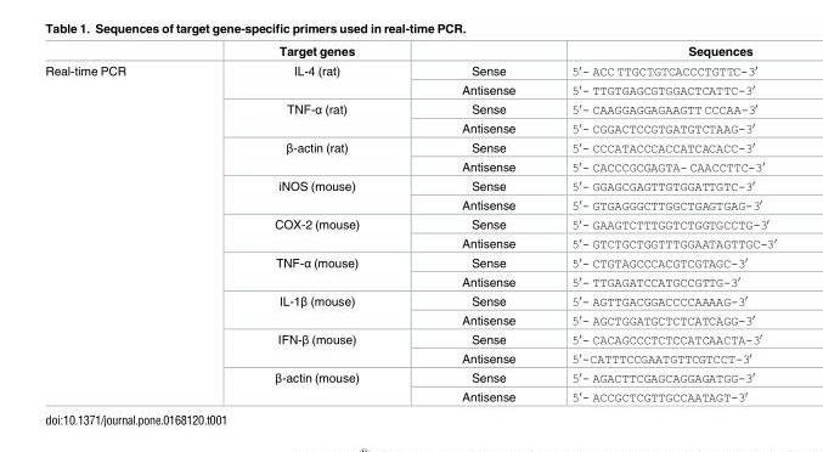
<table><thead><tr><td></td><td>Target genes</td><td></td><td>Sequences</td></tr></thead><tbody><tr><td rowspan="18">Real-time PCR</td><td rowspan="2">IL-4 (rat)</td><td>Sense</td><td>5′- ACC TTGCTGTCACCCTGTTC-3′</td></tr><tr><td>Antisense</td><td>5′- TTGTGAGCGTGGACTCATTC-3′</td></tr><tr><td rowspan="2">TNF-α (rat)</td><td>Sense</td><td>5′- CAAGGAGGAGAAGTT CCCAA-3′</td></tr><tr><td>Antisense</td><td>5′- CGGACTCCGTGATGTCTAAG-3′</td></tr><tr><td rowspan="2">β-actin (rat)</td><td>Sense</td><td>5′- CCCATACCCACCATCACACC-3′</td></tr><tr><td>Antisense</td><td>5′- CACCCGCGAGTA- CAACCTTC-3′</td></tr><tr><td rowspan="2">iNOS (mouse)</td><td>Sense</td><td>5′- GGAGCGAGTTGTGGATTGTC-3′</td></tr><tr><td>Antisense</td><td>5′- GTGAGGGCTTGGCTGAGTGAG-3′</td></tr><tr><td rowspan="2">COX-2 (mouse)</td><td>Sense</td><td>5′- GAAGTCTTTGGTCTGGTGCCTG-3′</td></tr><tr><td>Antisense</td><td>5′- GTCTGCTGGTTTGGAATAGTTGC-3′</td></tr><tr><td rowspan="2">TNF-α (mouse)</td><td>Sense</td><td>5′- CTGTAGCCCACGTCGTAGC-3′</td></tr><tr><td>Antisense</td><td>5′- TTGAGATCCATGCCGTTG-3′</td></tr><tr><td rowspan="2">IL-1β (mouse)</td><td>Sense</td><td>5′- AGTTGACGGACCCCAAAAG-3′</td></tr><tr><td>Antisense</td><td>5′- AGCTGGATGCTCTCATCAGG-3′</td></tr><tr><td rowspan="2">IFN-β (mouse)</td><td>Sense</td><td>5′- CACAGCCCTCTCCATCAACTA-3′</td></tr><tr><td>Antisense</td><td>5′-CATTTCCGAATGTTCGTCCT-3′</td></tr><tr><td rowspan="2">β-actin (mouse)</td><td>Sense</td><td>5′- AGACTTCGAGCAGGAGATGG-3′</td></tr><tr><td>Antisense</td><td>5′- ACCGCTCGTTGCCAATAGT-3′</td></tr></tbody></table>